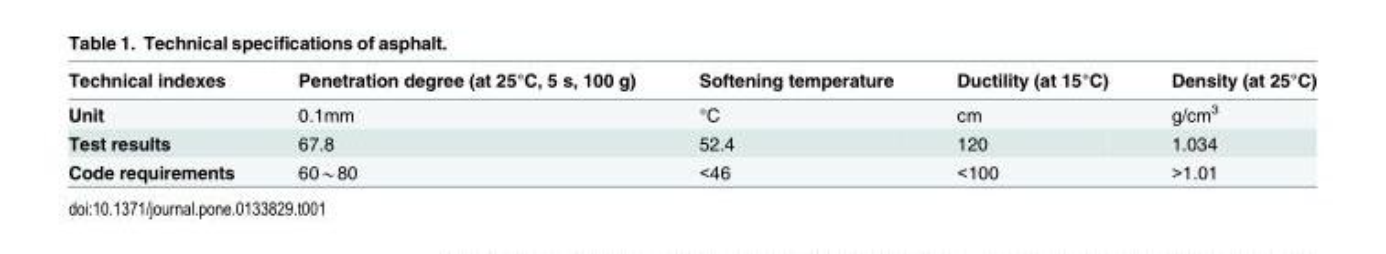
<table><thead><tr><td>Technical indexes</td><td>Penetration degree (at 25°C, 5 s, 100 g)</td><td>Softening temperature</td><td>Ductility (at 15°C)</td><td>Density (at 25°C)</td></tr></thead><tbody><tr><td>Unit</td><td>0.1mm</td><td>°C</td><td>cm</td><td>g/cm<sup>3</sup></td></tr><tr><td>Test results</td><td>67.8</td><td>52.4</td><td>120</td><td>1.034</td></tr><tr><td>Code requirements</td><td>60*80</td><td>&lt;46</td><td>&lt;100</td><td>&gt;1.01</td></tr></tbody></table>